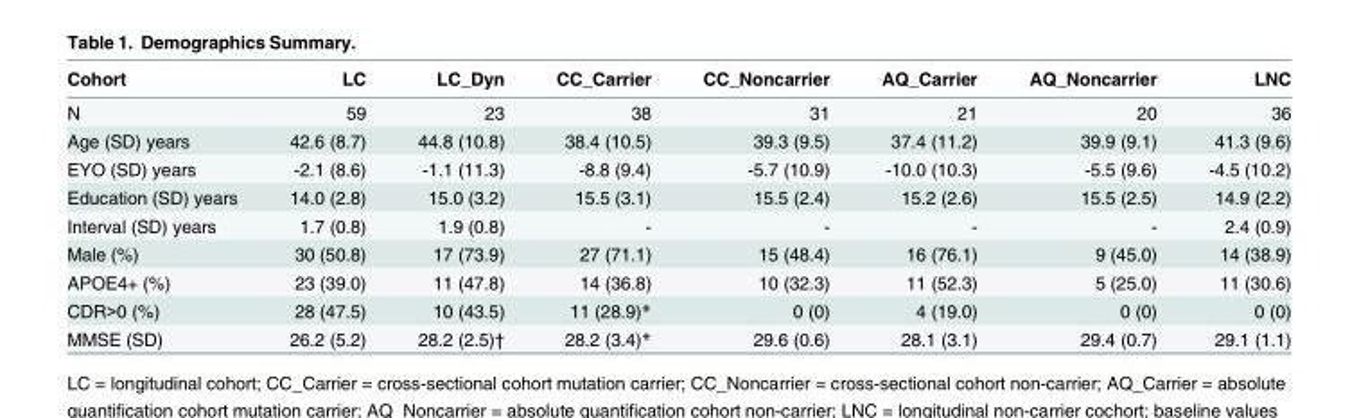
<table><thead><tr><td>Cohort</td><td>LC</td><td>LC_Dyn</td><td>CC_Carrier</td><td>CC_Noncarrier</td><td>AQ_Carrier</td><td>AQ_Noncarrier</td><td>LNC</td></tr></thead><tbody><tr><td>N</td><td>59</td><td>23</td><td>38</td><td>31</td><td>21</td><td>20</td><td>36</td></tr><tr><td>Age (SD) years</td><td>42.6 (8.7)</td><td>44.8 (10.8)</td><td>38.4 (10.5)</td><td>39.3 (9.5)</td><td>37.4 (11.2)</td><td>39.9 (9.1)</td><td>41.3 (9.6)</td></tr><tr><td>EYO (SD) years</td><td>-2.1 (8.6)</td><td>-1.1 (11.3)</td><td>-8.8 (9.4)</td><td>-5.7 (10.9)</td><td>-10.0 (10.3)</td><td>-5.5 (9.6)</td><td>-4.5 (10.2)</td></tr><tr><td>Education (SD) years</td><td>14.0 (2.8)</td><td>15.0 (3.2)</td><td>15.5 (3.1)</td><td>15.5 (2.4)</td><td>15.2 (2.6)</td><td>15.5 (2.5)</td><td>14.9 (2.2)</td></tr><tr><td>Interval (SD) years</td><td>1.7 (0.8)</td><td>1.9 (0.8)</td><td>-</td><td>-</td><td>-</td><td>-</td><td>2.4 (0.9)</td></tr><tr><td>Male (%)</td><td>30 (50.8)</td><td>17 (73.9)</td><td>27 (71.1)</td><td>15 (48.4)</td><td>16 (76.1)</td><td>9 (45.0)</td><td>14 (38.9)</td></tr><tr><td>APOE4+ (%)</td><td>23 (39.0)</td><td>11 (47.8)</td><td>14 (36.8)</td><td>10 (32.3)</td><td>11 (52.3)</td><td>5 (25.0)</td><td>11 (30.6)</td></tr><tr><td>CDR&gt;0 (%)</td><td>28 (47.5)</td><td>10 (43.5)</td><td>11 (28.9)*</td><td>0 (0)</td><td>4 (19.0)</td><td>0 (0)</td><td>0 (0)</td></tr><tr><td>MMSE (SD)</td><td>26.2 (5.2)</td><td>28.2 (2.5)†</td><td>28.2 (3.4)*</td><td>29.6 (0.6)</td><td>28.1 (3.1)</td><td>29.4 (0.7)</td><td>29.1 (1.1)</td></tr></tbody></table>